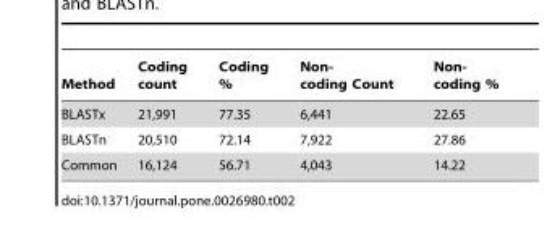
<table><thead><tr><td>Method</td><td>Coding count</td><td>Coding %</td><td>Non- coding Count</td><td>Non- coding %</td></tr></thead><tbody><tr><td>BLASTx</td><td>21,991</td><td>77.35</td><td>6,441</td><td>22.65</td></tr><tr><td>BLASTn</td><td>20,510</td><td>72.14</td><td>7,922</td><td>27.86</td></tr><tr><td>Common</td><td>16,124</td><td>56.71</td><td>4,043</td><td>14.22</td></tr></tbody></table>